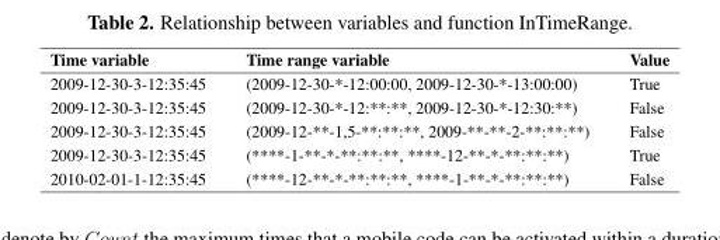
<table><thead><tr><td>Time variable</td><td>Time range variable</td><td>Value</td></tr></thead><tbody><tr><td>2009-12-30-3-12:35:45</td><td>(2009-12-30-*-12:00:00, 2009-12-30-*-13:00:00)</td><td>True</td></tr><tr><td>2009-12-30-3-12:35:45</td><td>(2009-12-30-*-12:**:**, 2009-12-30-*-12:30:**)</td><td>False</td></tr><tr><td>2009-12-30-3-12:35:45</td><td>(2009-12-**-1,5-**:**:**, 2009-**-**-2-**:**:**)</td><td>False</td></tr><tr><td>2009-12-30-3-12:35:45</td><td>(****-1-**-*-**:**:**, ****-12-**-*-**:**:**)</td><td>True</td></tr><tr><td>2010-02-01-1-12:35:45</td><td>(****-12-**-*-**:**:**, ****-1-**-*-**:**:**)</td><td>False</td></tr></tbody></table>